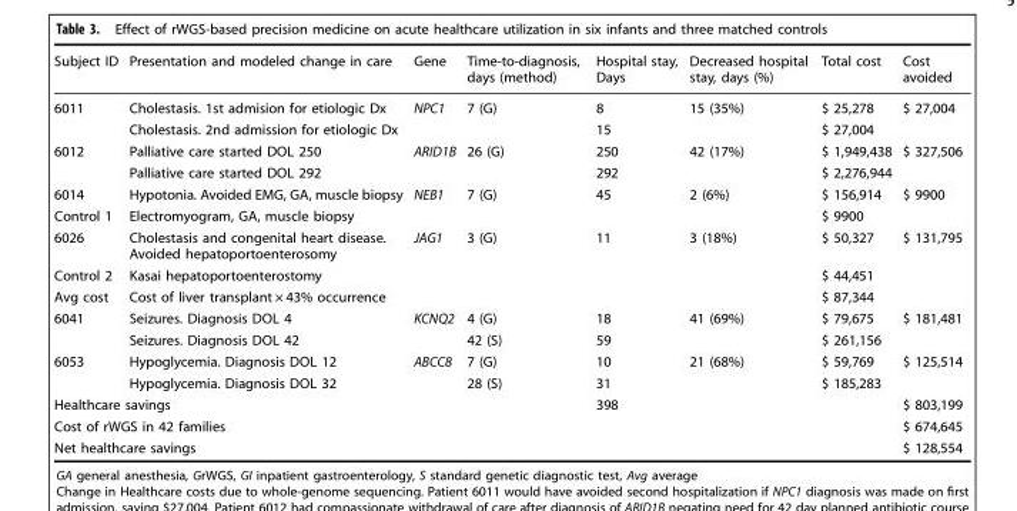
<table><thead><tr><td>Subject ID</td><td>Presentation and modeled change in care</td><td>Gene</td><td>Time-to-diagnosis, days (method)</td><td>Hospital stay, Days</td><td>Decreased hospital stay, days (%)</td><td>Total cost</td><td>Cost avoided</td></tr></thead><tbody><tr><td rowspan="2">6011</td><td>Cholestasis. 1st admision for etiologic Dx</td><td rowspan="2">NPC1</td><td rowspan="2">7 (G)</td><td>8</td><td rowspan="2">15 (35%)</td><td>$ 25,278</td><td rowspan="2">$ 27,004</td></tr><tr><td>Cholestasis. 2nd admission for etiologic Dx</td><td>15</td><td>$ 27,004</td></tr><tr><td rowspan="2">6012</td><td>Palliative care started DOL 250</td><td rowspan="2">ARID1B</td><td rowspan="2">26 (G)</td><td>250</td><td rowspan="2">42 (17%)</td><td>$ 1,949,438</td><td rowspan="2">$ 327,506</td></tr><tr><td>Palliative care started DOL 292</td><td>292</td><td>$ 2,276,944</td></tr><tr><td>6014</td><td>Hypotonia. Avoided EMG, GA, muscle biopsy</td><td rowspan="2">NEB1</td><td rowspan="2">7 (G)</td><td rowspan="2">45</td><td rowspan="2">2 (6%)</td><td>$ 156,914</td><td rowspan="2">$ 9900</td></tr><tr><td>Control 1</td><td>Electromyogram, GA, muscle biopsy</td><td>$ 9900</td></tr><tr><td>6026</td><td>Cholestasis and congenital heart disease. Avoided hepatoportoenterosomy</td><td rowspan="2">JAG1</td><td rowspan="2">3 (G)</td><td rowspan="2">11</td><td rowspan="2">3 (18%)</td><td>$ 50,327</td><td rowspan="3">$ 131,795</td></tr><tr><td>Control 2</td><td>Kasai hepatoportoenterostomy</td><td>$ 44,451</td></tr><tr><td>Avg cost</td><td>Cost of liver transplant × 43% occurrence</td><td></td><td></td><td></td><td></td><td>$ 87,344</td></tr><tr><td rowspan="2">6041</td><td>Seizures. Diagnosis DOL 4</td><td rowspan="2">KCNQ2</td><td>4 (G)</td><td>18</td><td rowspan="2">41 (69%)</td><td>$ 79,675</td><td rowspan="2">$ 181,481</td></tr><tr><td>Seizures. Diagnosis DOL 42</td><td>42 (S)</td><td>59</td><td>$ 261,156</td></tr><tr><td rowspan="2">6053</td><td>Hypoglycemia. Diagnosis DOL 12</td><td rowspan="2">ABCC8</td><td>7 (G)</td><td>10</td><td rowspan="2">21 (68%)</td><td>$ 59,769</td><td rowspan="2">$ 125,514</td></tr><tr><td>Hypoglycemia. Diagnosis DOL 32</td><td>28 (S)</td><td>31</td><td>$ 185,283</td></tr><tr><td colspan="2">Healthcare savings</td><td></td><td></td><td>398</td><td></td><td></td><td>$ 803,199</td></tr><tr><td colspan="2">Cost of rWGS in 42 families</td><td></td><td></td><td></td><td></td><td></td><td>$ 674,645</td></tr><tr><td colspan="2">Net healthcare savings</td><td></td><td></td><td></td><td></td><td></td><td>$ 128,554</td></tr></tbody></table>